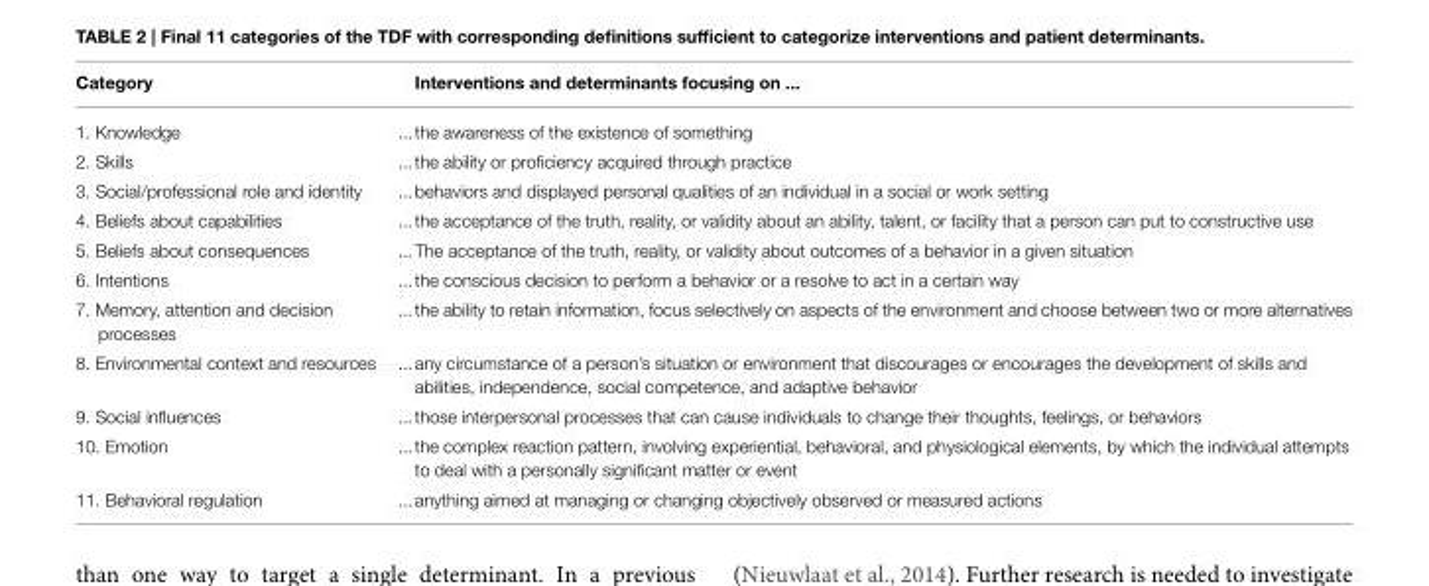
<table><thead><tr><td>Category</td><td>Interventions and determinants focusing on ...</td></tr></thead><tbody><tr><td>1. Knowledge</td><td>...the awareness of the existence of something</td></tr><tr><td>2. Skills</td><td>...the ability or proficiency acquired through practice</td></tr><tr><td>3. Social/professional role and identity</td><td>...behaviors and displayed personal qualities of an individual in a social or work setting</td></tr><tr><td>4. Beliefs about capabilities</td><td>...the acceptance of the truth, reality, or validity about an ability, talent, or facility that a person can put to constructive use</td></tr><tr><td>5. Beliefs about consequences</td><td>...The acceptance of the truth, reality, or validity about outcomes of a behavior in a given situation</td></tr><tr><td>6. Intentions</td><td>...the conscious decision to perform a behavior or a resolve to act in a certain way</td></tr><tr><td>7. Memory, attention and decision processes</td><td>...the ability to retain information, focus selectively on aspects of the environment and choose between two or more alternatives</td></tr><tr><td>8. Environmental context and resources</td><td>...any circumstance of a person’s situation or environment that discourages or encourages the development of skills and abilities, independence, social competence, and adaptive behavior</td></tr><tr><td>9. Social influences</td><td>...those interpersonal processes that can cause individuals to change their thoughts, feelings, or behaviors</td></tr><tr><td>10. Emotion</td><td>...the complex reaction pattern, involving experiential, behavioral, and physiological elements, by which the individual attempts to deal with a personally significant matter or event</td></tr><tr><td>11. Behavioral regulation</td><td>...anything aimed at managing or changing objectively observed or measured actions</td></tr></tbody></table>